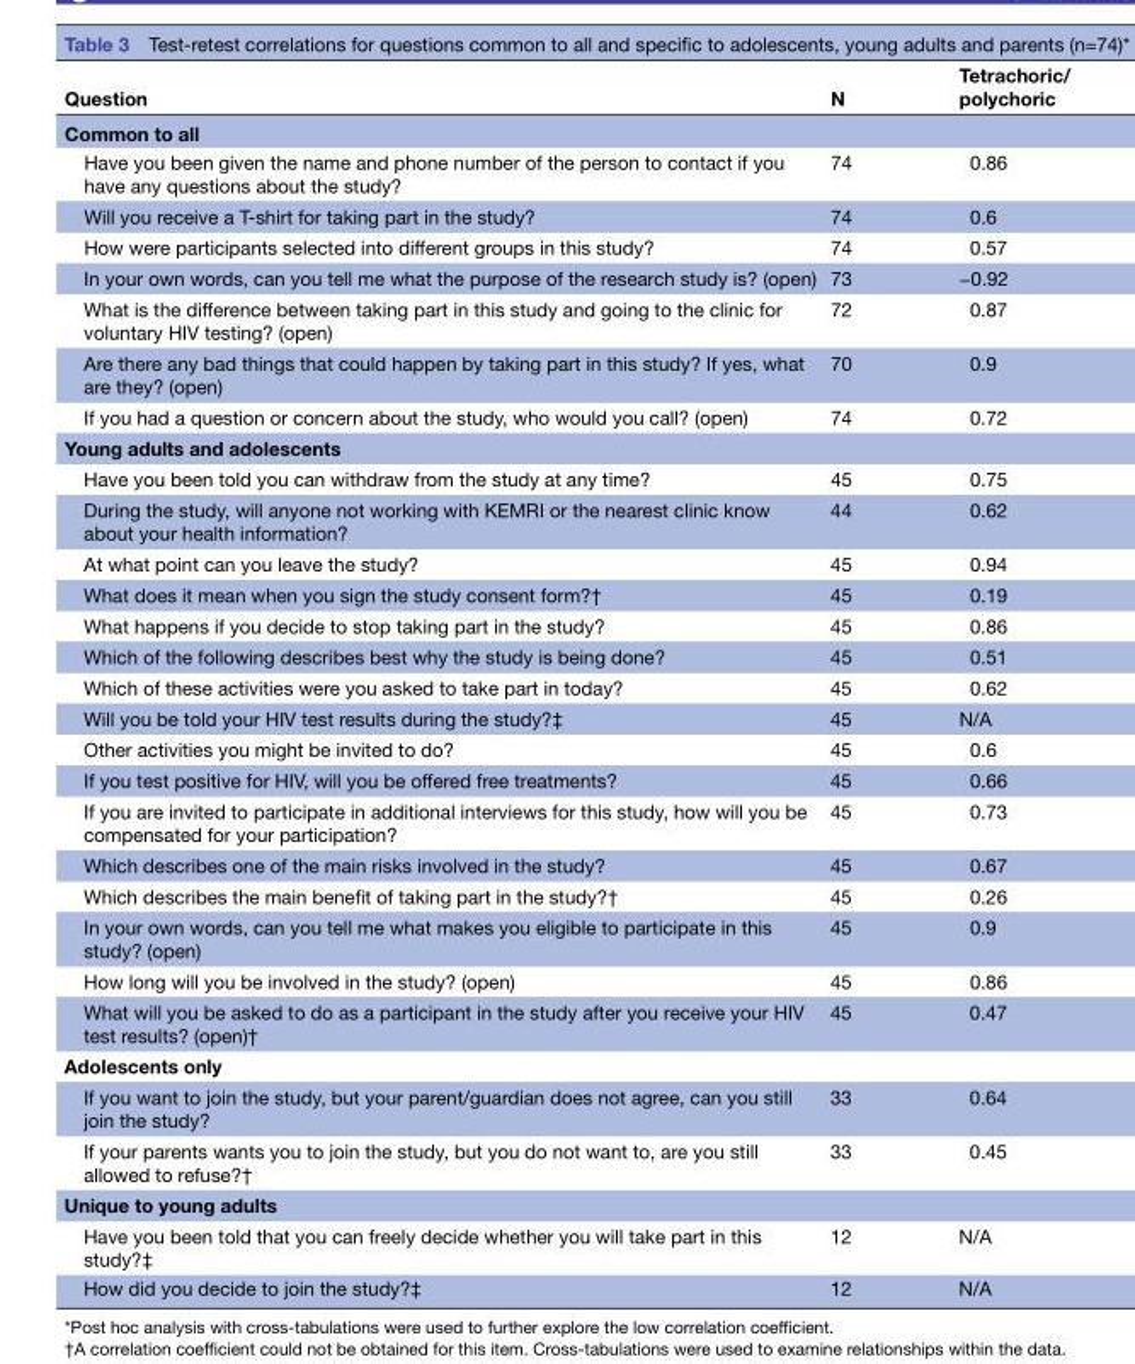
<table><thead><tr><td>Question</td><td>N</td><td>Tetrachoric/ polychoric</td></tr></thead><tbody><tr><td colspan="3">Common to all</td></tr><tr><td>Have you been given the name and phone number of the person to contact if you have any questions about the study?</td><td>74</td><td>0.86</td></tr><tr><td>Will you receive a T-shirt for taking part in the study?</td><td>74</td><td>0.6</td></tr><tr><td>How were participants selected into different groups in this study?</td><td>74</td><td>0.57</td></tr><tr><td>In your own words, can you tell me what the purpose of the research study is? (open)</td><td>73</td><td>−0.92</td></tr><tr><td>What is the difference between taking part in this study and going to the clinic for voluntary HIV testing? (open)</td><td>72</td><td>0.87</td></tr><tr><td>Are there any bad things that could happen by taking part in this study? If yes, what are they? (open)</td><td>70</td><td>0.9</td></tr><tr><td>If you had a question or concern about the study, who would you call? (open)</td><td>74</td><td>0.72</td></tr><tr><td colspan="3">Young adults and adolescents</td></tr><tr><td>Have you been told you can withdraw from the study at any time?</td><td>45</td><td>0.75</td></tr><tr><td>During the study, will anyone not working with KEMRI or the nearest clinic know about your health information?</td><td>44</td><td>0.62</td></tr><tr><td>At what point can you leave the study?</td><td>45</td><td>0.94</td></tr><tr><td>What does it mean when you sign the study consent form?†</td><td>45</td><td>0.19</td></tr><tr><td>What happens if you decide to stop taking part in the study?</td><td>45</td><td>0.86</td></tr><tr><td>Which of the following describes best why the study is being done?</td><td>45</td><td>0.51</td></tr><tr><td>Which of these activities were you asked to take part in today?</td><td>45</td><td>0.62</td></tr><tr><td>Will you be told your HIV test results during the study?‡</td><td>45</td><td>N/A</td></tr><tr><td>Other activities you might be invited to do?</td><td>45</td><td>0.6</td></tr><tr><td>If you test positive for HIV, will you be offered free treatments?</td><td>45</td><td>0.66</td></tr><tr><td>If you are invited to participate in additional interviews for this study, how will you be compensated for your participation?</td><td>45</td><td>0.73</td></tr><tr><td>Which describes one of the main risks involved in the study?</td><td>45</td><td>0.67</td></tr><tr><td>Which describes the main benefit of taking part in the study?†</td><td>45</td><td>0.26</td></tr><tr><td>In your own words, can you tell me what makes you eligible to participate in this study? (open)</td><td>45</td><td>0.9</td></tr><tr><td>How long will you be involved in the study? (open)</td><td>45</td><td>0.86</td></tr><tr><td>What will you be asked to do as a participant in the study after you receive your HIV test results? (open)†</td><td>45</td><td>0.47</td></tr><tr><td colspan="3">Adolescents only</td></tr><tr><td>If you want to join the study, but your parent/guardian does not agree, can you still join the study?</td><td>33</td><td>0.64</td></tr><tr><td>If your parents wants you to join the study, but you do not want to, are you still allowed to refuse?†</td><td>33</td><td>0.45</td></tr><tr><td colspan="3">Unique to young adults</td></tr><tr><td>Have you been told that you can freely decide whether you will take part in this study?‡</td><td>12</td><td>N/A</td></tr><tr><td>How did you decide to join the study?‡</td><td>12</td><td>N/A</td></tr></tbody></table>